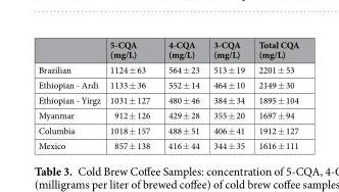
<table><thead><tr><td></td><td>5-CQA (mg/L)</td><td>4-CQA (mg/L)</td><td>3-CQA (mg/L)</td><td>Total CQA (mg/L)</td></tr></thead><tbody><tr><td>Brazilian</td><td>1124 ± 63</td><td>564 ± 23</td><td>513 ± 19</td><td>2201 ± 53</td></tr><tr><td>Ethiopian - Ardi</td><td>1133 ± 36</td><td>552 ± 14</td><td>464 ± 10</td><td>2149 ± 30</td></tr><tr><td>Ethiopian - Yirgz</td><td>1031 ± 127</td><td>480 ± 46</td><td>384 ± 34</td><td>1895 ± 104</td></tr><tr><td>Myanmar</td><td>912 ± 126</td><td>429 ± 28</td><td>355 ± 20</td><td>1697 ± 94</td></tr><tr><td>Columbia</td><td>1018 ± 157</td><td>488 ± 51</td><td>406 ± 41</td><td>1912 ± 127</td></tr><tr><td>Mexico</td><td>857 ± 138</td><td>416 ± 44</td><td>344 ± 35</td><td>1616 ± 111</td></tr></tbody></table>